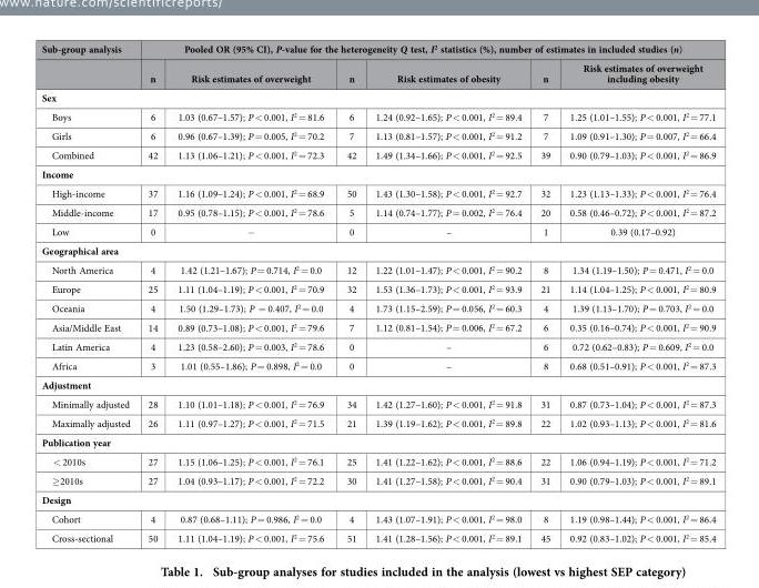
<table><thead><tr><td rowspan="2">Sub-group analysis</td><td colspan="6">Pooled OR (95% CI), P-value for the heterogeneity Q test, I<sup>2</sup> statistics (%), number of estimates in included studies (n)</td></tr><tr><td>n</td><td>Risk estimates of overweight</td><td>n</td><td>Risk estimates of obesity</td><td>n</td><td>Risk estimates of overweight including obesity</td></tr></thead><tbody><tr><td colspan="7">Sex</td></tr><tr><td>Boys</td><td>6</td><td>1.03 (0.67–1.57); P &lt; 0.001, I<sup>2</sup> = 81.6</td><td>6</td><td>1.24 (0.92–1.65); P &lt; 0.001, I<sup>2</sup> = 89.4</td><td>7</td><td>1.25 (1.01–1.55); P &lt; 0.001, I<sup>2</sup> = 77.1</td></tr><tr><td>Girls</td><td>6</td><td>0.96 (0.67–1.39); P = 0.005, I<sup>2</sup> = 70.2</td><td>7</td><td>1.13 (0.81–1.57); P &lt; 0.001, I<sup>2</sup> = 91.2</td><td>7</td><td>1.09 (0.91–1.30); P = 0.007, I<sup>2</sup> = 66.4</td></tr><tr><td>Combined</td><td>42</td><td>1.13 (1.06–1.21); P &lt; 0.001, I<sup>2</sup> = 72.3</td><td>42</td><td>1.49 (1.34–1.66); P &lt; 0.001, I<sup>2</sup> = 92.5</td><td>39</td><td>0.90 (0.79–1.03); P &lt; 0.001, I<sup>2</sup> = 86.9</td></tr><tr><td colspan="7">Income</td></tr><tr><td>High-income</td><td>37</td><td>1.16 (1.09–1.24); P &lt; 0.001, I<sup>2</sup> = 68.9</td><td>50</td><td>1.43 (1.30–1.58); P &lt; 0.001, I<sup>2</sup> = 92.7</td><td>32</td><td>1.23 (1.13–1.33); P &lt; 0.001, I<sup>2</sup> = 76.4</td></tr><tr><td>Middle-income</td><td>17</td><td>0.95 (0.78–1.15); P &lt; 0.001, I<sup>2</sup> = 78.6</td><td>5</td><td>1.14 (0.74–1.77); P = 0.002, I<sup>2</sup> = 76.4</td><td>20</td><td>0.58 (0.46–0.72); P &lt; 0.001, I<sup>2</sup> = 87.2</td></tr><tr><td>Low</td><td>0</td><td>−</td><td>0</td><td>–</td><td>1</td><td>0.39 (0.17–0.92)</td></tr><tr><td colspan="7">Geographical area</td></tr><tr><td>North America</td><td>4</td><td>1.42 (1.21–1.67); P = 0.714, I<sup>2</sup> = 0.0</td><td>12</td><td>1.22 (1.01–1.47); P &lt; 0.001, I<sup>2</sup> = 90.2</td><td>8</td><td>1.34 (1.19–1.50); P = 0.471, I<sup>2</sup> = 0.0</td></tr><tr><td>Europe</td><td>25</td><td>1.11 (1.04–1.19); P &lt; 0.001, I<sup>2</sup> = 70.9</td><td>32</td><td>1.53 (1.36–1.73); P &lt; 0.001, I<sup>2</sup> = 93.9</td><td>21</td><td>1.14 (1.04–1.25); P &lt; 0.001, I<sup>2</sup> = 80.9</td></tr><tr><td>Oceania</td><td>4</td><td>1.50 (1.29–1.73); P = 0.407, I<sup>2</sup> = 0.0</td><td>4</td><td>1.73 (1.15–2.59); P = 0.056, I<sup>2</sup> = 60.3</td><td>4</td><td>1.39 (1.13–1.70); P = 0.703, I<sup>2</sup> = 0.0</td></tr><tr><td>Asia/Middle East</td><td>14</td><td>0.89 (0.73–1.08); P &lt; 0.001, I<sup>2</sup> = 79.6</td><td>7</td><td>1.12 (0.81–1.54); P = 0.006, I<sup>2</sup> = 67.2</td><td>6</td><td>0.35 (0.16–0.74); P &lt; 0.001, I<sup>2</sup> = 90.9</td></tr><tr><td>Latin America</td><td>4</td><td>1.23 (0.58–2.60); P = 0.003, I<sup>2</sup> = 78.6</td><td>0</td><td>–</td><td>6</td><td>0.72 (0.62–0.83); P = 0.609, I<sup>2</sup> = 0.0</td></tr><tr><td>Africa</td><td>3</td><td>1.01 (0.55–1.86); P = 0.898, I<sup>2</sup> = 0.0</td><td>0</td><td>–</td><td>8</td><td>0.68 (0.51–0.91); P &lt; 0.001, I<sup>2</sup> = 87.3</td></tr><tr><td colspan="7">Adjustment</td></tr><tr><td>Minimally adjusted</td><td>28</td><td>1.10 (1.01–1.18); P &lt; 0.001, I<sup>2</sup> = 76.9</td><td>34</td><td>1.42 (1.27–1.60); P &lt; 0.001, I<sup>2</sup> = 91.8</td><td>31</td><td>0.87 (0.73–1.04); P &lt; 0.001, I<sup>2</sup> = 87.3</td></tr><tr><td>Maximally adjusted</td><td>26</td><td>1.11 (0.97–1.27); P &lt; 0.001, I<sup>2</sup> = 71.5</td><td>21</td><td>1.39 (1.19–1.62); P &lt; 0.001, I<sup>2</sup> = 89.8</td><td>22</td><td>1.02 (0.93–1.13); P &lt; 0.001, I<sup>2</sup> = 81.6</td></tr><tr><td colspan="7">Publication year</td></tr><tr><td>&lt; 2010s</td><td>27</td><td>1.15 (1.06–1.25); P &lt; 0.001, I<sup>2</sup> = 76.1</td><td>25</td><td>1.41 (1.22–1.62); P &lt; 0.001, I<sup>2</sup> = 88.6</td><td>22</td><td>1.06 (0.94–1.19); P &lt; 0.001, I<sup>2</sup> = 71.2</td></tr><tr><td>≥ 2010s</td><td>27</td><td>1.04 (0.93–1.17); P &lt; 0.001, I<sup>2</sup> = 72.2</td><td>30</td><td>1.41 (1.27–1.58); P &lt; 0.001, I<sup>2</sup> = 90.4</td><td>31</td><td>0.90 (0.79–1.03); P &lt; 0.001, I<sup>2</sup> = 89.1</td></tr><tr><td colspan="7">Design</td></tr><tr><td>Cohort</td><td>4</td><td>0.87 (0.68–1.11); P = 0.986, I<sup>2</sup> = 0.0</td><td>4</td><td>1.43 (1.07–1.91); P &lt; 0.001, I<sup>2</sup> = 98.0</td><td>8</td><td>1.19 (0.98–1.44); P &lt; 0.001, I<sup>2</sup> = 86.4</td></tr><tr><td>Cross-sectional</td><td>50</td><td>1.11 (1.04–1.19); P &lt; 0.001, I<sup>2</sup> = 75.6</td><td>51</td><td>1.41 (1.28–1.56); P &lt; 0.001, I<sup>2</sup> = 89.1</td><td>45</td><td>0.92 (0.83–1.02); P &lt; 0.001, I<sup>2</sup> = 85.4</td></tr></tbody></table>